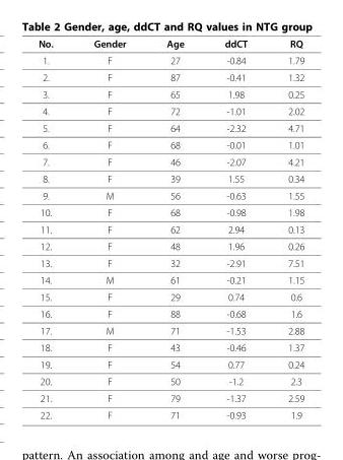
<table><thead><tr><td>No.</td><td>Gender</td><td>Age</td><td>ddCT</td><td>RQ</td></tr></thead><tbody><tr><td>1.</td><td>F</td><td>27</td><td>-0.84</td><td>1.79</td></tr><tr><td>2.</td><td>F</td><td>87</td><td>-0.41</td><td>1.32</td></tr><tr><td>3.</td><td>F</td><td>65</td><td>1.98</td><td>0.25</td></tr><tr><td>4.</td><td>F</td><td>72</td><td>-1.01</td><td>2.02</td></tr><tr><td>5.</td><td>F</td><td>64</td><td>-2.32</td><td>4.71</td></tr><tr><td>6.</td><td>F</td><td>68</td><td>-0.01</td><td>1.01</td></tr><tr><td>7.</td><td>F</td><td>46</td><td>-2.07</td><td>4.21</td></tr><tr><td>8.</td><td>F</td><td>39</td><td>1.55</td><td>0.34</td></tr><tr><td>9.</td><td>M</td><td>56</td><td>-0.63</td><td>1.55</td></tr><tr><td>10.</td><td>F</td><td>68</td><td>-0.98</td><td>1.98</td></tr><tr><td>11.</td><td>F</td><td>62</td><td>2.94</td><td>0.13</td></tr><tr><td>12.</td><td>F</td><td>48</td><td>1.96</td><td>0.26</td></tr><tr><td>13.</td><td>F</td><td>32</td><td>-2.91</td><td>7.51</td></tr><tr><td>14.</td><td>M</td><td>61</td><td>-0.21</td><td>1.15</td></tr><tr><td>15.</td><td>F</td><td>29</td><td>0.74</td><td>0.6</td></tr><tr><td>16.</td><td>F</td><td>88</td><td>-0.68</td><td>1.6</td></tr><tr><td>17.</td><td>M</td><td>71</td><td>-1.53</td><td>2.88</td></tr><tr><td>18.</td><td>F</td><td>43</td><td>-0.46</td><td>1.37</td></tr><tr><td>19.</td><td>F</td><td>54</td><td>0.77</td><td>0.24</td></tr><tr><td>20.</td><td>F</td><td>50</td><td>-1.2</td><td>2.3</td></tr><tr><td>21.</td><td>F</td><td>79</td><td>-1.37</td><td>2.59</td></tr><tr><td>22.</td><td>F</td><td>71</td><td>-0.93</td><td>1.9</td></tr></tbody></table>